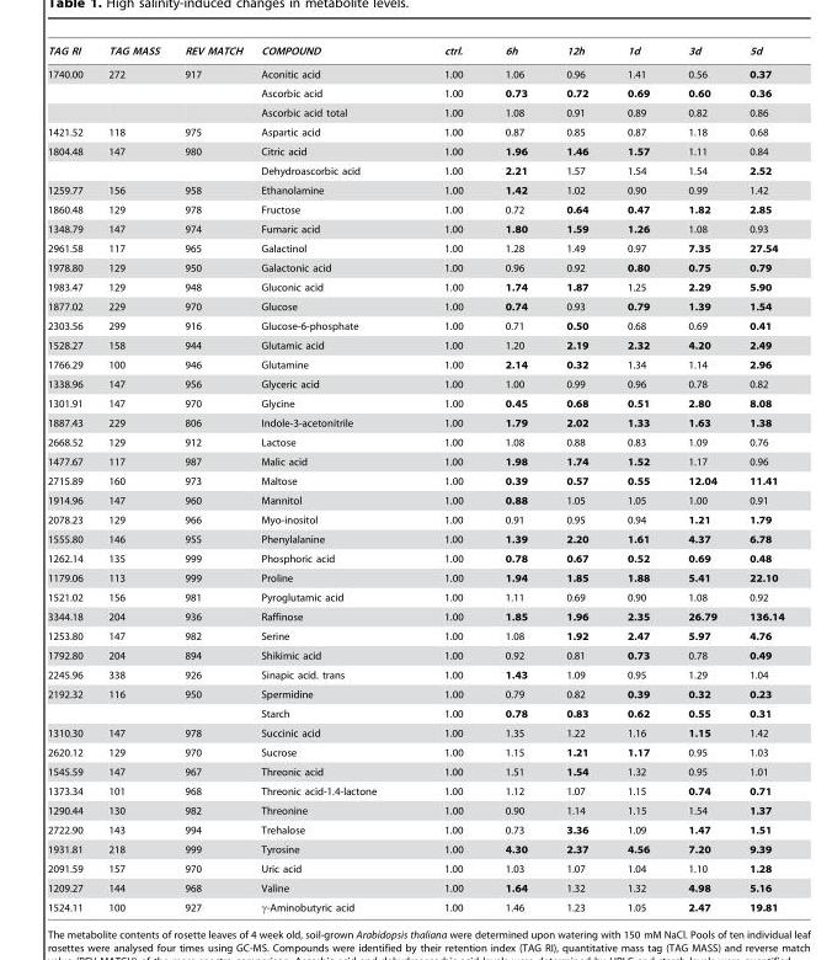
<table><thead><tr><td>TAG RI</td><td>TAG MASS</td><td>REV MATCH</td><td>COMPOUND</td><td>ctrl.</td><td>6h</td><td>12h</td><td>1d</td><td>3d</td><td>5d</td></tr></thead><tbody><tr><td rowspan="3">1740.00</td><td>272</td><td>917</td><td>Aconitic acid</td><td>1.00</td><td>1.06</td><td>0.96</td><td>1.41</td><td>0.56</td><td>0.37</td></tr><tr><td></td><td></td><td>Ascorbic acid</td><td>1.00</td><td>0.73</td><td>0.72</td><td>0.69</td><td>0.60</td><td>0.36</td></tr><tr><td></td><td></td><td>Ascorbic acid total</td><td>1.00</td><td>1.08</td><td>0.91</td><td>0.89</td><td>0.82</td><td>0.86</td></tr><tr><td>1421.52</td><td>118</td><td>975</td><td>Aspartic acid</td><td>1.00</td><td>0.87</td><td>0.85</td><td>0.87</td><td>1.18</td><td>0.68</td></tr><tr><td rowspan="2">1804.48</td><td>147</td><td>980</td><td>Citric acid</td><td>1.00</td><td>1.96</td><td>1.46</td><td>1.57</td><td>1.11</td><td>0.84</td></tr><tr><td></td><td></td><td>Dehydroascorbic acid</td><td>1.00</td><td>2.21</td><td>1.57</td><td>1.54</td><td>1.54</td><td>2.52</td></tr><tr><td>1259.77</td><td>156</td><td>958</td><td>Ethanolamine</td><td>1.00</td><td>1.42</td><td>1.02</td><td>0.90</td><td>0.99</td><td>1.42</td></tr><tr><td>1860.48</td><td>129</td><td>978</td><td>Fructose</td><td>1.00</td><td>0.72</td><td>0.64</td><td>0.47</td><td>1.82</td><td>2.85</td></tr><tr><td>1348.79</td><td>147</td><td>974</td><td>Fumaric acid</td><td>1.00</td><td>1.80</td><td>1.59</td><td>1.26</td><td>1.08</td><td>0.93</td></tr><tr><td>2961.58</td><td>117</td><td>965</td><td>Galactinol</td><td>1.00</td><td>1.28</td><td>1.49</td><td>0.97</td><td>7.35</td><td>27.54</td></tr><tr><td>1978.80</td><td>129</td><td>950</td><td>Galactonic acid</td><td>1.00</td><td>0.96</td><td>0.92</td><td>0.80</td><td>0.75</td><td>0.79</td></tr><tr><td>1983.47</td><td>129</td><td>948</td><td>Gluconic acid</td><td>1.00</td><td>1.74</td><td>1.87</td><td>1.25</td><td>2.29</td><td>5.90</td></tr><tr><td>1877.02</td><td>229</td><td>970</td><td>Glucose</td><td>1.00</td><td>0.74</td><td>0.93</td><td>0.79</td><td>1.39</td><td>1.54</td></tr><tr><td>2303.56</td><td>299</td><td>916</td><td>Glucose-6-phosphate</td><td>1.00</td><td>0.71</td><td>0.50</td><td>0.68</td><td>0.69</td><td>0.41</td></tr><tr><td>1528.27</td><td>158</td><td>944</td><td>Glutamic acid</td><td>1.00</td><td>1.20</td><td>2.19</td><td>2.32</td><td>4.20</td><td>2.49</td></tr><tr><td>1766.29</td><td>100</td><td>946</td><td>Glutamine</td><td>1.00</td><td>2.14</td><td>0.32</td><td>1.34</td><td>1.14</td><td>2.96</td></tr><tr><td>1338.96</td><td>147</td><td>956</td><td>Glyceric acid</td><td>1.00</td><td>1.00</td><td>0.99</td><td>0.96</td><td>0.78</td><td>0.82</td></tr><tr><td>1301.91</td><td>147</td><td>970</td><td>Glycine</td><td>1.00</td><td>0.45</td><td>0.68</td><td>0.51</td><td>2.80</td><td>8.08</td></tr><tr><td>1887.43</td><td>229</td><td>806</td><td>Indole-3-acetonitrile</td><td>1.00</td><td>1.79</td><td>2.02</td><td>1.33</td><td>1.63</td><td>1.38</td></tr><tr><td>2668.52</td><td>129</td><td>912</td><td>Lactose</td><td>1.00</td><td>1.08</td><td>0.88</td><td>0.83</td><td>1.09</td><td>0.76</td></tr><tr><td>1477.67</td><td>117</td><td>987</td><td>Malic acid</td><td>1.00</td><td>1.98</td><td>1.74</td><td>1.52</td><td>1.17</td><td>0.96</td></tr><tr><td>2715.89</td><td>160</td><td>973</td><td>Maltose</td><td>1.00</td><td>0.39</td><td>0.57</td><td>0.55</td><td>12.04</td><td>11.41</td></tr><tr><td>1914.96</td><td>147</td><td>960</td><td>Mannitol</td><td>1.00</td><td>0.88</td><td>1.05</td><td>1.05</td><td>1.00</td><td>0.91</td></tr><tr><td>2078.23</td><td>129</td><td>966</td><td>Myo-inositol</td><td>1.00</td><td>0.91</td><td>0.95</td><td>0.94</td><td>1.21</td><td>1.79</td></tr><tr><td>1555.80</td><td>146</td><td>955</td><td>Phenylalanine</td><td>1.00</td><td>1.39</td><td>2.20</td><td>1.61</td><td>4.37</td><td>6.78</td></tr><tr><td>1262.14</td><td>135</td><td>999</td><td>Phosphoric acid</td><td>1.00</td><td>0.78</td><td>0.67</td><td>0.52</td><td>0.69</td><td>0.48</td></tr><tr><td>1179.06</td><td>113</td><td>999</td><td>Proline</td><td>1.00</td><td>1.94</td><td>1.85</td><td>1.88</td><td>5.41</td><td>22.10</td></tr><tr><td>1521.02</td><td>156</td><td>981</td><td>Pyroglutamic acid</td><td>1.00</td><td>1.11</td><td>0.69</td><td>0.90</td><td>1.08</td><td>0.92</td></tr><tr><td>3344.18</td><td>204</td><td>936</td><td>Raffinose</td><td>1.00</td><td>1.85</td><td>1.96</td><td>2.35</td><td>26.79</td><td>136.14</td></tr><tr><td>1253.80</td><td>147</td><td>982</td><td>Serine</td><td>1.00</td><td>1.08</td><td>1.92</td><td>2.47</td><td>5.97</td><td>4.76</td></tr><tr><td>1792.80</td><td>204</td><td>894</td><td>Shikimic acid</td><td>1.00</td><td>0.92</td><td>0.81</td><td>0.73</td><td>0.78</td><td>0.49</td></tr><tr><td>2245.96</td><td>338</td><td>926</td><td>Sinapic acid. trans</td><td>1.00</td><td>1.43</td><td>1.09</td><td>0.95</td><td>1.29</td><td>1.04</td></tr><tr><td rowspan="2">2192.32</td><td>116</td><td>950</td><td>Spermidine</td><td>1.00</td><td>0.79</td><td>0.82</td><td>0.39</td><td>0.32</td><td>0.23</td></tr><tr><td></td><td></td><td>Starch</td><td>1.00</td><td>0.78</td><td>0.83</td><td>0.62</td><td>0.55</td><td>0.31</td></tr><tr><td>1310.30</td><td>147</td><td>978</td><td>Succinic acid</td><td>1.00</td><td>1.35</td><td>1.22</td><td>1.16</td><td>1.15</td><td>1.42</td></tr><tr><td>2620.12</td><td>129</td><td>970</td><td>Sucrose</td><td>1.00</td><td>1.15</td><td>1.21</td><td>1.17</td><td>0.95</td><td>1.03</td></tr><tr><td>1545.59</td><td>147</td><td>967</td><td>Threonic acid</td><td>1.00</td><td>1.51</td><td>1.54</td><td>1.32</td><td>0.95</td><td>1.01</td></tr><tr><td>1373.34</td><td>101</td><td>968</td><td>Threonic acid-1.4-lactone</td><td>1.00</td><td>1.12</td><td>1.07</td><td>1.15</td><td>0.74</td><td>0.71</td></tr><tr><td>1290.44</td><td>130</td><td>982</td><td>Threonine</td><td>1.00</td><td>0.90</td><td>1.14</td><td>1.15</td><td>1.54</td><td>1.37</td></tr><tr><td>2722.90</td><td>143</td><td>994</td><td>Trehalose</td><td>1.00</td><td>0.73</td><td>3.36</td><td>1.09</td><td>1.47</td><td>1.51</td></tr><tr><td>1931.81</td><td>218</td><td>999</td><td>Tyrosine</td><td>1.00</td><td>4.30</td><td>2.37</td><td>4.56</td><td>7.20</td><td>9.39</td></tr><tr><td>2091.59</td><td>157</td><td>970</td><td>Uric acid</td><td>1.00</td><td>1.03</td><td>1.07</td><td>1.04</td><td>1.10</td><td>1.28</td></tr><tr><td>1209.27</td><td>144</td><td>968</td><td>Valine</td><td>1.00</td><td>1.64</td><td>1.32</td><td>1.32</td><td>4.98</td><td>5.16</td></tr><tr><td>1524.11</td><td>100</td><td>927</td><td>γ-Aminobutyric acid</td><td>1.00</td><td>1.46</td><td>1.23</td><td>1.05</td><td>2.47</td><td>19.81</td></tr></tbody></table>